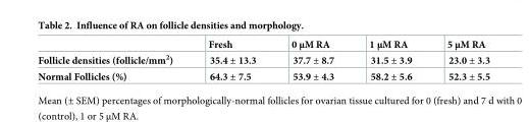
<table><thead><tr><td></td><td>Fresh</td><td>0 μM RA</td><td>1 μM RA</td><td>5 μM RA</td></tr></thead><tbody><tr><td>Follicle densities (follicle/mm<sup>2</sup>)</td><td>35.4 ± 13.3</td><td>37.7 ± 8.7</td><td>31.5 ± 3.9</td><td>23.0 ± 3.3</td></tr><tr><td>Normal Follicles (%)</td><td>64.3 ± 7.5</td><td>53.9 ± 4.3</td><td>58.2 ± 5.6</td><td>52.3 ± 5.5</td></tr></tbody></table>